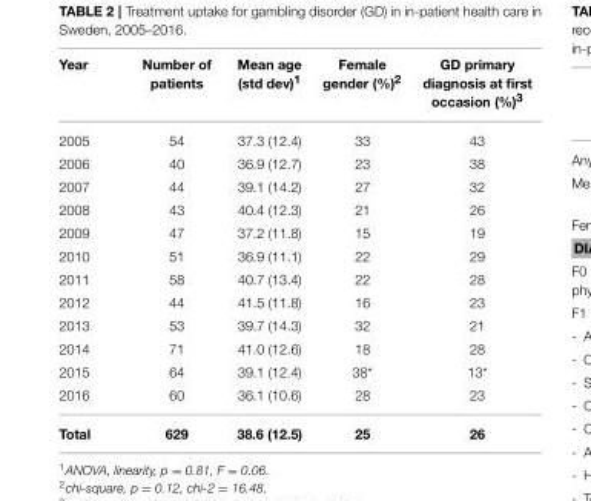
<table><thead><tr><td>Year</td><td>Number of patients</td><td>Mean age (std dev)<sup>1</sup></td><td>Female gender (%)<sup>2</sup></td><td>GD primary diagnosis at first occasion (%)<sup>3</sup></td></tr></thead><tbody><tr><td>2005</td><td>54</td><td>37.3 (12.4)</td><td>33</td><td>43</td></tr><tr><td>2006</td><td>40</td><td>36.9 (12.7)</td><td>23</td><td>38</td></tr><tr><td>2007</td><td>44</td><td>39.1 (14.2)</td><td>27</td><td>32</td></tr><tr><td>2008</td><td>43</td><td>40.4 (12.3)</td><td>21</td><td>26</td></tr><tr><td>2009</td><td>47</td><td>37.2 (11.8)</td><td>15</td><td>19</td></tr><tr><td>2010</td><td>51</td><td>36.9 (11.1)</td><td>22</td><td>29</td></tr><tr><td>2011</td><td>58</td><td>40.7 (13.4)</td><td>22</td><td>28</td></tr><tr><td>2012</td><td>44</td><td>41.5 (11.8)</td><td>16</td><td>23</td></tr><tr><td>2013</td><td>53</td><td>39.7 (14.3)</td><td>32</td><td>21</td></tr><tr><td>2014</td><td>71</td><td>41.0 (12.6)</td><td>18</td><td>28</td></tr><tr><td>2015</td><td>64</td><td>39.1 (12.4)</td><td>38*</td><td>13*</td></tr><tr><td>2016</td><td>60</td><td>36.1 (10.6)</td><td>28</td><td>23</td></tr><tr><td>Total</td><td>629</td><td>38.6 (12.5)</td><td>25</td><td>26</td></tr></tbody></table>